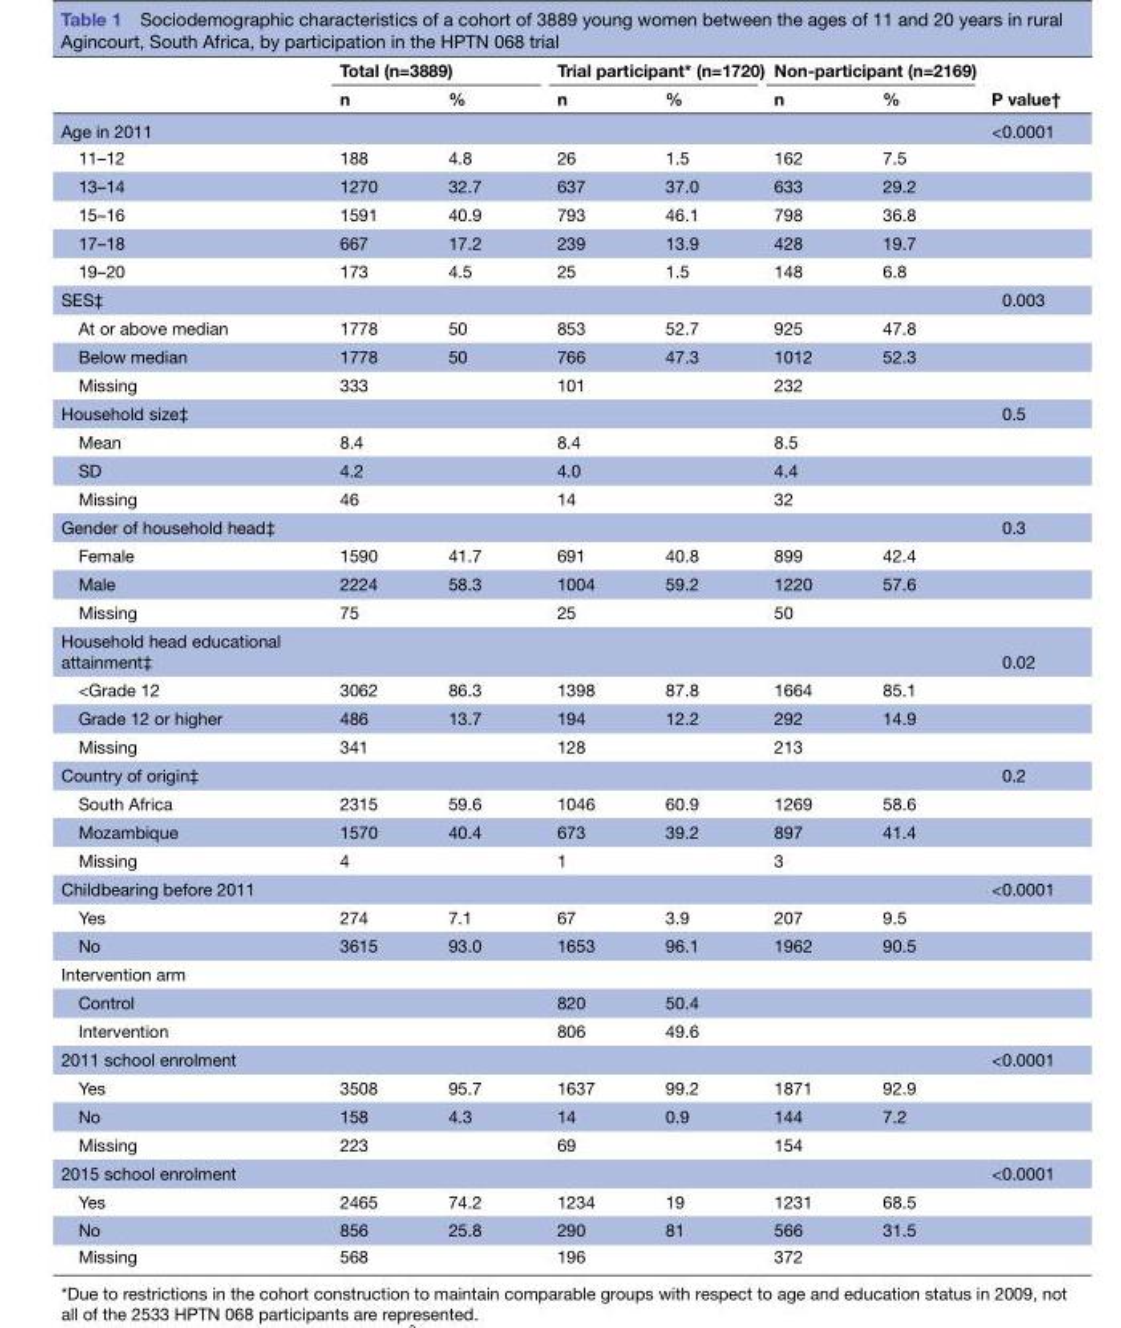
<table><thead><tr><td rowspan="2"></td><td colspan="2">Total (n=3889)</td><td colspan="2">Trial participant* (n=1720)</td><td colspan="2">Non-participant (n=2169)</td><td rowspan="2">P value†</td></tr><tr><td>n</td><td>%</td><td>n</td><td>%</td><td>n</td><td>%</td></tr></thead><tbody><tr><td>Age in 2011</td><td></td><td></td><td></td><td></td><td></td><td></td><td>&lt;0.0001</td></tr><tr><td>11–12</td><td>188</td><td>4.8</td><td>26</td><td>1.5</td><td>162</td><td>7.5</td><td></td></tr><tr><td>13–14</td><td>1270</td><td>32.7</td><td>637</td><td>37.0</td><td>633</td><td>29.2</td><td></td></tr><tr><td>15–16</td><td>1591</td><td>40.9</td><td>793</td><td>46.1</td><td>798</td><td>36.8</td><td></td></tr><tr><td>17–18</td><td>667</td><td>17.2</td><td>239</td><td>13.9</td><td>428</td><td>19.7</td><td></td></tr><tr><td>19–20</td><td>173</td><td>4.5</td><td>25</td><td>1.5</td><td>148</td><td>6.8</td><td></td></tr><tr><td>SES‡</td><td></td><td></td><td></td><td></td><td></td><td></td><td>0.003</td></tr><tr><td>At or above median</td><td>1778</td><td>50</td><td>853</td><td>52.7</td><td>925</td><td>47.8</td><td></td></tr><tr><td>Below median</td><td>1778</td><td>50</td><td>766</td><td>47.3</td><td>1012</td><td>52.3</td><td></td></tr><tr><td>Missing</td><td>333</td><td></td><td>101</td><td></td><td>232</td><td></td><td></td></tr><tr><td>Household size‡</td><td></td><td></td><td></td><td></td><td></td><td></td><td>0.5</td></tr><tr><td>Mean</td><td>8.4</td><td></td><td>8.4</td><td></td><td>8.5</td><td></td><td></td></tr><tr><td>SD</td><td>4.2</td><td></td><td>4.0</td><td></td><td>4.4</td><td></td><td></td></tr><tr><td>Missing</td><td>46</td><td></td><td>14</td><td></td><td>32</td><td></td><td></td></tr><tr><td>Gender of household head‡</td><td></td><td></td><td></td><td></td><td></td><td></td><td>0.3</td></tr><tr><td>Female</td><td>1590</td><td>41.7</td><td>691</td><td>40.8</td><td>899</td><td>42.4</td><td></td></tr><tr><td>Male</td><td>2224</td><td>58.3</td><td>1004</td><td>59.2</td><td>1220</td><td>57.6</td><td></td></tr><tr><td>Missing</td><td>75</td><td></td><td>25</td><td></td><td>50</td><td></td><td></td></tr><tr><td>Household head educational attainment‡</td><td></td><td></td><td></td><td></td><td></td><td></td><td>0.02</td></tr><tr><td>&lt;Grade 12</td><td>3062</td><td>86.3</td><td>1398</td><td>87.8</td><td>1664</td><td>85.1</td><td></td></tr><tr><td>Grade 12 or higher</td><td>486</td><td>13.7</td><td>194</td><td>12.2</td><td>292</td><td>14.9</td><td></td></tr><tr><td>Missing</td><td>341</td><td></td><td>128</td><td></td><td>213</td><td></td><td></td></tr><tr><td>Country of origin‡</td><td></td><td></td><td></td><td></td><td></td><td></td><td>0.2</td></tr><tr><td>South Africa</td><td>2315</td><td>59.6</td><td>1046</td><td>60.9</td><td>1269</td><td>58.6</td><td></td></tr><tr><td>Mozambique</td><td>1570</td><td>40.4</td><td>673</td><td>39.2</td><td>897</td><td>41.4</td><td></td></tr><tr><td>Missing</td><td>4</td><td></td><td>1</td><td></td><td>3</td><td></td><td></td></tr><tr><td>Childbearing before 2011</td><td></td><td></td><td></td><td></td><td></td><td></td><td>&lt;0.0001</td></tr><tr><td>Yes</td><td>274</td><td>7.1</td><td>67</td><td>3.9</td><td>207</td><td>9.5</td><td></td></tr><tr><td>No</td><td>3615</td><td>93.0</td><td>1653</td><td>96.1</td><td>1962</td><td>90.5</td><td></td></tr><tr><td colspan="8">Intervention arm</td></tr><tr><td>Control</td><td></td><td></td><td>820</td><td>50.4</td><td></td><td></td><td></td></tr><tr><td>Intervention</td><td></td><td></td><td>806</td><td>49.6</td><td></td><td></td><td></td></tr><tr><td>2011 school enrolment</td><td></td><td></td><td></td><td></td><td></td><td></td><td>&lt;0.0001</td></tr><tr><td>Yes</td><td>3508</td><td>95.7</td><td>1637</td><td>99.2</td><td>1871</td><td>92.9</td><td></td></tr><tr><td>No</td><td>158</td><td>4.3</td><td>14</td><td>0.9</td><td>144</td><td>7.2</td><td></td></tr><tr><td>Missing</td><td>223</td><td></td><td>69</td><td></td><td>154</td><td></td><td></td></tr><tr><td>2015 school enrolment</td><td></td><td></td><td></td><td></td><td></td><td></td><td>&lt;0.0001</td></tr><tr><td>Yes</td><td>2465</td><td>74.2</td><td>1234</td><td>19</td><td>1231</td><td>68.5</td><td></td></tr><tr><td>No</td><td>856</td><td>25.8</td><td>290</td><td>81</td><td>566</td><td>31.5</td><td></td></tr><tr><td>Missing</td><td>568</td><td></td><td>196</td><td></td><td>372</td><td></td><td></td></tr></tbody></table>